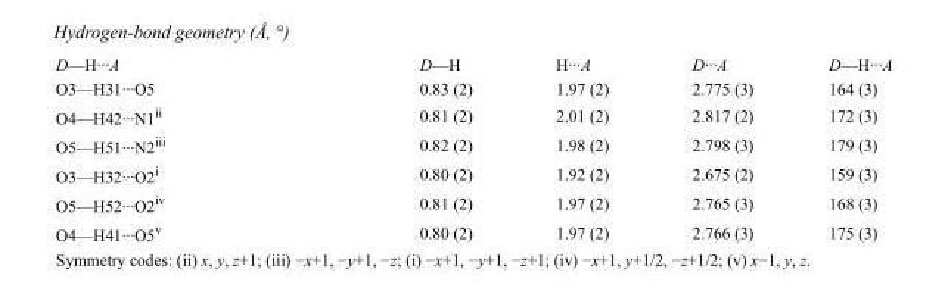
<table><tbody><tr><td>D—H···A</td><td>D—H</td><td>H···A</td><td>D···A</td><td>D—H···A</td></tr><tr><td>O3—H31···O5</td><td>0.83 (2)</td><td>1.97 (2)</td><td>2.775 (3)</td><td>164 (3)</td></tr><tr><td>O4—H42···N1<sup>ii</sup></td><td>0.81 (2)</td><td>2.01 (2)</td><td>2.817 (2)</td><td>172 (3)</td></tr><tr><td>O5—H51···N2<sup>iii</sup></td><td>0.82 (2)</td><td>1.98 (2)</td><td>2.798 (3)</td><td>179 (3)</td></tr><tr><td>O3—H32···O2<sup>i</sup></td><td>0.80 (2)</td><td>1.92 (2)</td><td>2.675 (2)</td><td>159 (3)</td></tr><tr><td>O5—H52···O2<sup>iv</sup></td><td>0.81 (2)</td><td>1.97 (2)</td><td>2.765 (3)</td><td>168 (3)</td></tr><tr><td>O4—H41···O5<sup>v</sup></td><td>0.80 (2)</td><td>1.97 (2)</td><td>2.766 (3)</td><td>175 (3)</td></tr></tbody></table>